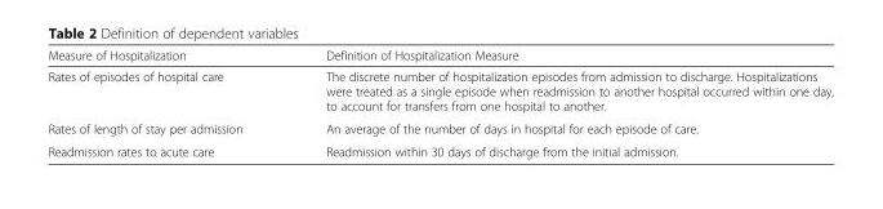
<table><thead><tr><td>Measure of Hospitalization</td><td>Definition of Hospitalization Measure</td></tr></thead><tbody><tr><td>Rates of episodes of hospital care</td><td>The discrete number of hospitalization episodes from admission to discharge. Hospitalizations were treated as a single episode when readmission to another hospital occurred within one day, to account for transfers from one hospital to another.</td></tr><tr><td>Rates of length of stay per admission</td><td>An average of the number of days in hospital for each episode of care.</td></tr><tr><td>Readmission rates to acute care</td><td>Readmission within 30 days of discharge from the initial admission.</td></tr></tbody></table>